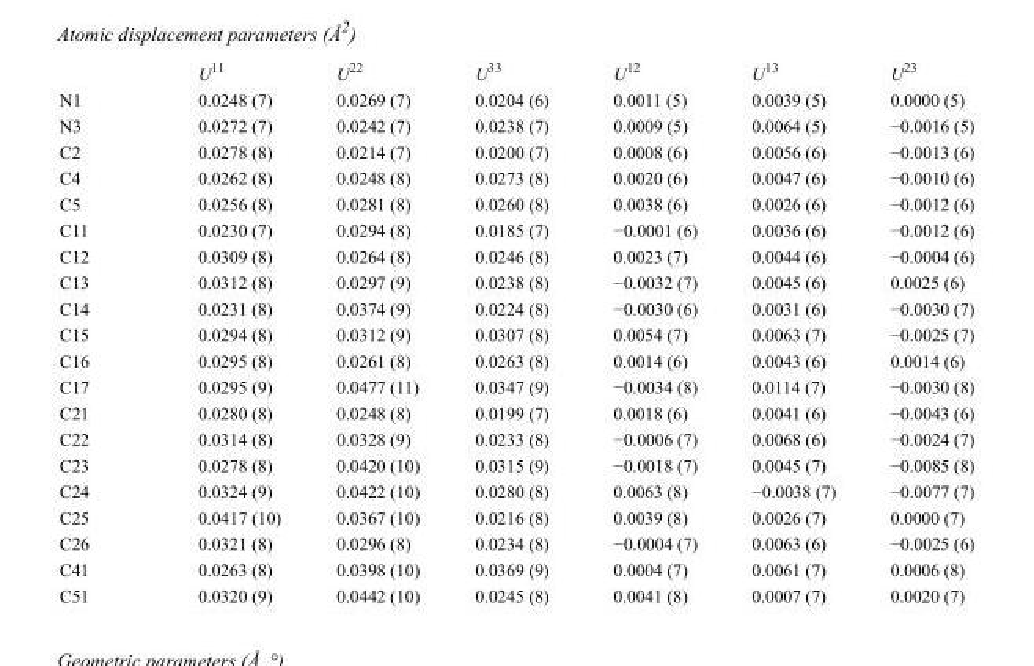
<table><thead><tr><td></td><td>U<sup>11</sup></td><td>U<sup>22</sup></td><td>U<sup>33</sup></td><td>U<sup>12</sup></td><td>U<sup>13</sup></td><td>U<sup>23</sup></td></tr></thead><tbody><tr><td>N1</td><td>0.0248 (7)</td><td>0.0269 (7)</td><td>0.0204 (6)</td><td>0.0011 (5)</td><td>0.0039 (5)</td><td>0.0000 (5)</td></tr><tr><td>N3</td><td>0.0272 (7)</td><td>0.0242 (7)</td><td>0.0238 (7)</td><td>0.0009 (5)</td><td>0.0064 (5)</td><td>−0.0016 (5)</td></tr><tr><td>C2</td><td>0.0278 (8)</td><td>0.0214 (7)</td><td>0.0200 (7)</td><td>0.0008 (6)</td><td>0.0056 (6)</td><td>−0.0013 (6)</td></tr><tr><td>C4</td><td>0.0262 (8)</td><td>0.0248 (8)</td><td>0.0273 (8)</td><td>0.0020 (6)</td><td>0.0047 (6)</td><td>−0.0010 (6)</td></tr><tr><td>C5</td><td>0.0256 (8)</td><td>0.0281 (8)</td><td>0.0260 (8)</td><td>0.0038 (6)</td><td>0.0026 (6)</td><td>−0.0012 (6)</td></tr><tr><td>C11</td><td>0.0230 (7)</td><td>0.0294 (8)</td><td>0.0185 (7)</td><td>−0.0001 (6)</td><td>0.0036 (6)</td><td>−0.0012 (6)</td></tr><tr><td>C12</td><td>0.0309 (8)</td><td>0.0264 (8)</td><td>0.0246 (8)</td><td>0.0023 (7)</td><td>0.0044 (6)</td><td>−0.0004 (6)</td></tr><tr><td>C13</td><td>0.0312 (8)</td><td>0.0297 (9)</td><td>0.0238 (8)</td><td>−0.0032 (7)</td><td>0.0045 (6)</td><td>0.0025 (6)</td></tr><tr><td>C14</td><td>0.0231 (8)</td><td>0.0374 (9)</td><td>0.0224 (8)</td><td>−0.0030 (6)</td><td>0.0031 (6)</td><td>−0.0030 (7)</td></tr><tr><td>C15</td><td>0.0294 (8)</td><td>0.0312 (9)</td><td>0.0307 (8)</td><td>0.0054 (7)</td><td>0.0063 (7)</td><td>−0.0025 (7)</td></tr><tr><td>C16</td><td>0.0295 (8)</td><td>0.0261 (8)</td><td>0.0263 (8)</td><td>0.0014 (6)</td><td>0.0043 (6)</td><td>0.0014 (6)</td></tr><tr><td>C17</td><td>0.0295 (9)</td><td>0.0477 (11)</td><td>0.0347 (9)</td><td>−0.0034 (8)</td><td>0.0114 (7)</td><td>−0.0030 (8)</td></tr><tr><td>C21</td><td>0.0280 (8)</td><td>0.0248 (8)</td><td>0.0199 (7)</td><td>0.0018 (6)</td><td>0.0041 (6)</td><td>−0.0043 (6)</td></tr><tr><td>C22</td><td>0.0314 (8)</td><td>0.0328 (9)</td><td>0.0233 (8)</td><td>−0.0006 (7)</td><td>0.0068 (6)</td><td>−0.0024 (7)</td></tr><tr><td>C23</td><td>0.0278 (8)</td><td>0.0420 (10)</td><td>0.0315 (9)</td><td>−0.0018 (7)</td><td>0.0045 (7)</td><td>−0.0085 (8)</td></tr><tr><td>C24</td><td>0.0324 (9)</td><td>0.0422 (10)</td><td>0.0280 (8)</td><td>0.0063 (8)</td><td>−0.0038 (7)</td><td>−0.0077 (7)</td></tr><tr><td>C25</td><td>0.0417 (10)</td><td>0.0367 (10)</td><td>0.0216 (8)</td><td>0.0039 (8)</td><td>0.0026 (7)</td><td>0.0000 (7)</td></tr><tr><td>C26</td><td>0.0321 (8)</td><td>0.0296 (8)</td><td>0.0234 (8)</td><td>−0.0004 (7)</td><td>0.0063 (6)</td><td>−0.0025 (6)</td></tr><tr><td>C41</td><td>0.0263 (8)</td><td>0.0398 (10)</td><td>0.0369 (9)</td><td>0.0004 (7)</td><td>0.0061 (7)</td><td>0.0006 (8)</td></tr><tr><td>C51</td><td>0.0320 (9)</td><td>0.0442 (10)</td><td>0.0245 (8)</td><td>0.0041 (8)</td><td>0.0007 (7)</td><td>0.0020 (7)</td></tr></tbody></table>